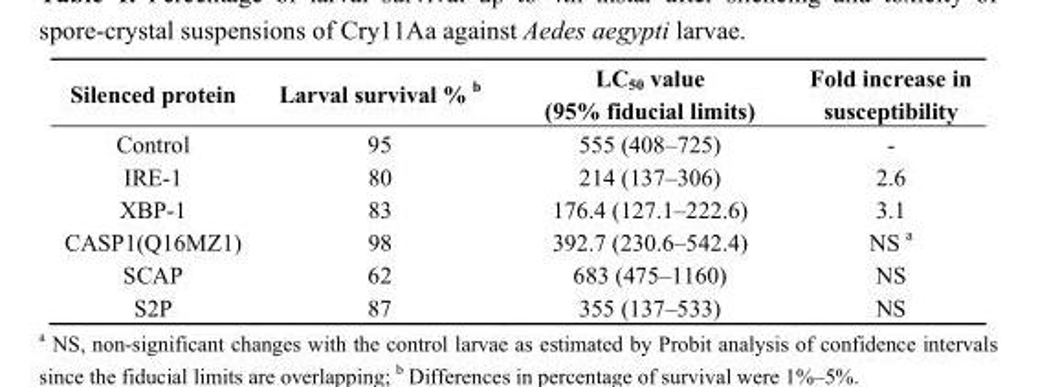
<table><thead><tr><td>Silenced protein</td><td>Larval survival % b</td><td>LC<sub>50</sub> value (95% fiducial limits)</td><td>Fold increase in susceptibility</td></tr></thead><tbody><tr><td>Control</td><td>95</td><td>555 (408–725)</td><td>-</td></tr><tr><td>IRE-1</td><td>80</td><td>214 (137–306)</td><td>2.6</td></tr><tr><td>XBP-1</td><td>83</td><td>176.4 (127.1–222.6)</td><td>3.1</td></tr><tr><td>CASP1(Q16MZ1)</td><td>98</td><td>392.7 (230.6–542.4)</td><td>NS a</td></tr><tr><td>SCAP</td><td>62</td><td>683 (475–1160)</td><td>NS</td></tr><tr><td>S2P</td><td>87</td><td>355 (137–533)</td><td>NS</td></tr></tbody></table>